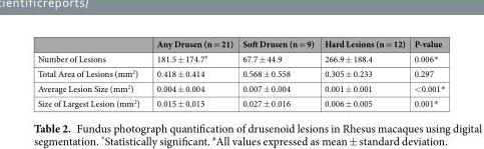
<table><thead><tr><td></td><td>Any Drusen (n = 21)</td><td>Soft Drusen (n = 9)</td><td>Hard Lesions (n = 12)</td><td>P-value</td></tr></thead><tbody><tr><td>Number of Lesions</td><td>181.5 ± 174.7<sup>#</sup></td><td>67.7 ± 44.9</td><td>266.9 ± 188.4</td><td>0.006*</td></tr><tr><td>Total Area of Lesions (mm<sup>2</sup>)</td><td>0.418 ± 0.414</td><td>0.568 ± 0.558</td><td>0.305 ± 0.233</td><td>0.297</td></tr><tr><td>Average Lesion Size (mm<sup>2</sup>)</td><td>0.004 ± 0.004</td><td>0.007 ± 0.004</td><td>0.001 ± 0.001</td><td>&lt;0.001*</td></tr><tr><td>Size of Largest Lesion (mm<sup>2</sup>)</td><td>0.015 ± 0.015</td><td>0.027 ± 0.016</td><td>0.006 ± 0.005</td><td>0.001*</td></tr></tbody></table>